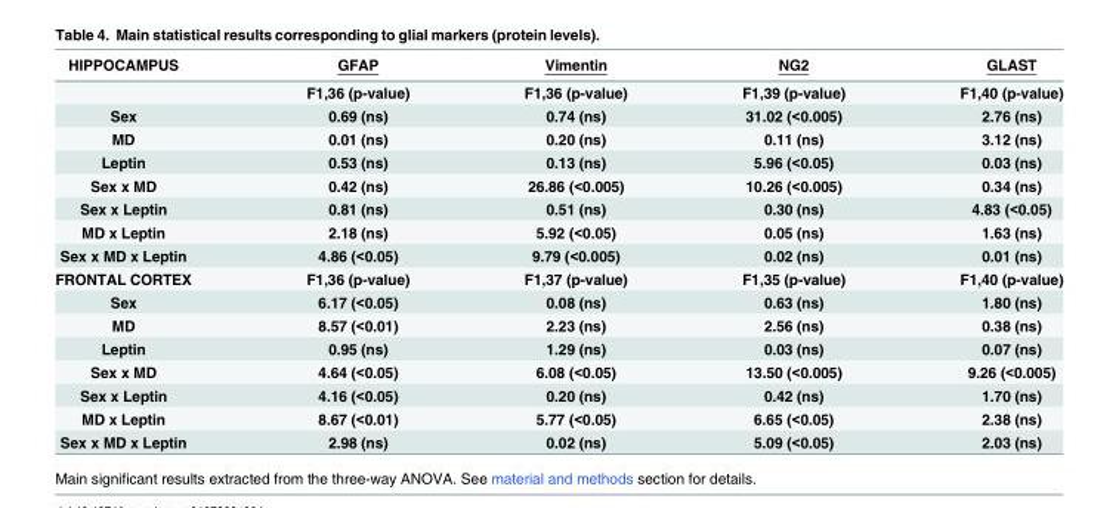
<table><thead><tr><td>HIPPOCAMPUS</td><td>GFAP</td><td>Vimentin</td><td>NG2</td><td>GLAST</td></tr></thead><tbody><tr><td></td><td>F1,36 (p-value)</td><td>F1,36 (p-value)</td><td>F1,39 (p-value)</td><td>F1,40 (p-value)</td></tr><tr><td>Sex</td><td>0.69 (ns)</td><td>0.74 (ns)</td><td>31.02 (&lt;0.005)</td><td>2.76 (ns)</td></tr><tr><td>MD</td><td>0.01 (ns)</td><td>0.20 (ns)</td><td>0.11 (ns)</td><td>3.12 (ns)</td></tr><tr><td>Leptin</td><td>0.53 (ns)</td><td>0.13 (ns)</td><td>5.96 (&lt;0.05)</td><td>0.03 (ns)</td></tr><tr><td>Sex x MD</td><td>0.42 (ns)</td><td>26.86 (&lt;0.005)</td><td>10.26 (&lt;0.005)</td><td>0.34 (ns)</td></tr><tr><td>Sex x Leptin</td><td>0.81 (ns)</td><td>0.51 (ns)</td><td>0.30 (ns)</td><td>4.83 (&lt;0.05)</td></tr><tr><td>MD x Leptin</td><td>2.18 (ns)</td><td>5.92 (&lt;0.05)</td><td>0.05 (ns)</td><td>1.63 (ns)</td></tr><tr><td>Sex x MD x Leptin</td><td>4.86 (&lt;0.05)</td><td>9.79 (&lt;0.005)</td><td>0.02 (ns)</td><td>0.01 (ns)</td></tr><tr><td>FRONTAL CORTEX</td><td>F1,36 (p-value)</td><td>F1,37 (p-value)</td><td>F1,35 (p-value)</td><td>F1,40 (p-value)</td></tr><tr><td>Sex</td><td>6.17 (&lt;0.05)</td><td>0.08 (ns)</td><td>0.63 (ns)</td><td>1.80 (ns)</td></tr><tr><td>MD</td><td>8.57 (&lt;0.01)</td><td>2.23 (ns)</td><td>2.56 (ns)</td><td>0.38 (ns)</td></tr><tr><td>Leptin</td><td>0.95 (ns)</td><td>1.29 (ns)</td><td>0.03 (ns)</td><td>0.07 (ns)</td></tr><tr><td>Sex x MD</td><td>4.64 (&lt;0.05)</td><td>6.08 (&lt;0.05)</td><td>13.50 (&lt;0.005)</td><td>9.26 (&lt;0.005)</td></tr><tr><td>Sex x Leptin</td><td>4.16 (&lt;0.05)</td><td>0.20 (ns)</td><td>0.42 (ns)</td><td>1.70 (ns)</td></tr><tr><td>MD x Leptin</td><td>8.67 (&lt;0.01)</td><td>5.77 (&lt;0.05)</td><td>6.65 (&lt;0.05)</td><td>2.38 (ns)</td></tr><tr><td>Sex x MD x Leptin</td><td>2.98 (ns)</td><td>0.02 (ns)</td><td>5.09 (&lt;0.05)</td><td>2.03 (ns)</td></tr></tbody></table>